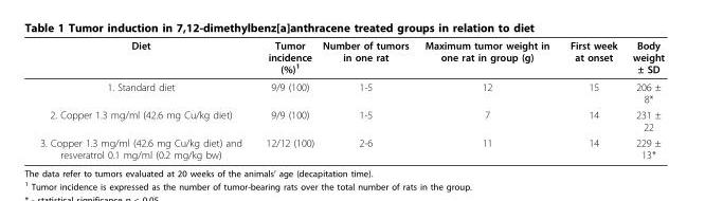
<table><thead><tr><td>Diet</td><td>Tumor incidence (%)<sup>1</sup></td><td>Number of tumors in one rat</td><td>Maximum tumor weight in one rat in group (g)</td><td>First week at onset</td><td>Body weight ± SD</td></tr></thead><tbody><tr><td>1. Standard diet</td><td>9/9 (100)</td><td>1-5</td><td>12</td><td>15</td><td>206 ± 8*</td></tr><tr><td>2. Copper 1.3 mg/ml (42.6 mg Cu/kg diet)</td><td>9/9 (100)</td><td>1-5</td><td>7</td><td>14</td><td>231 ± 22</td></tr><tr><td>3. Copper 1.3 mg/ml (42.6 mg Cu/kg diet) and resveratrol 0.1 mg/ml (0.2 mg/kg bw)</td><td>12/12 (100)</td><td>2-6</td><td>11</td><td>14</td><td>229 ± 13*</td></tr></tbody></table>